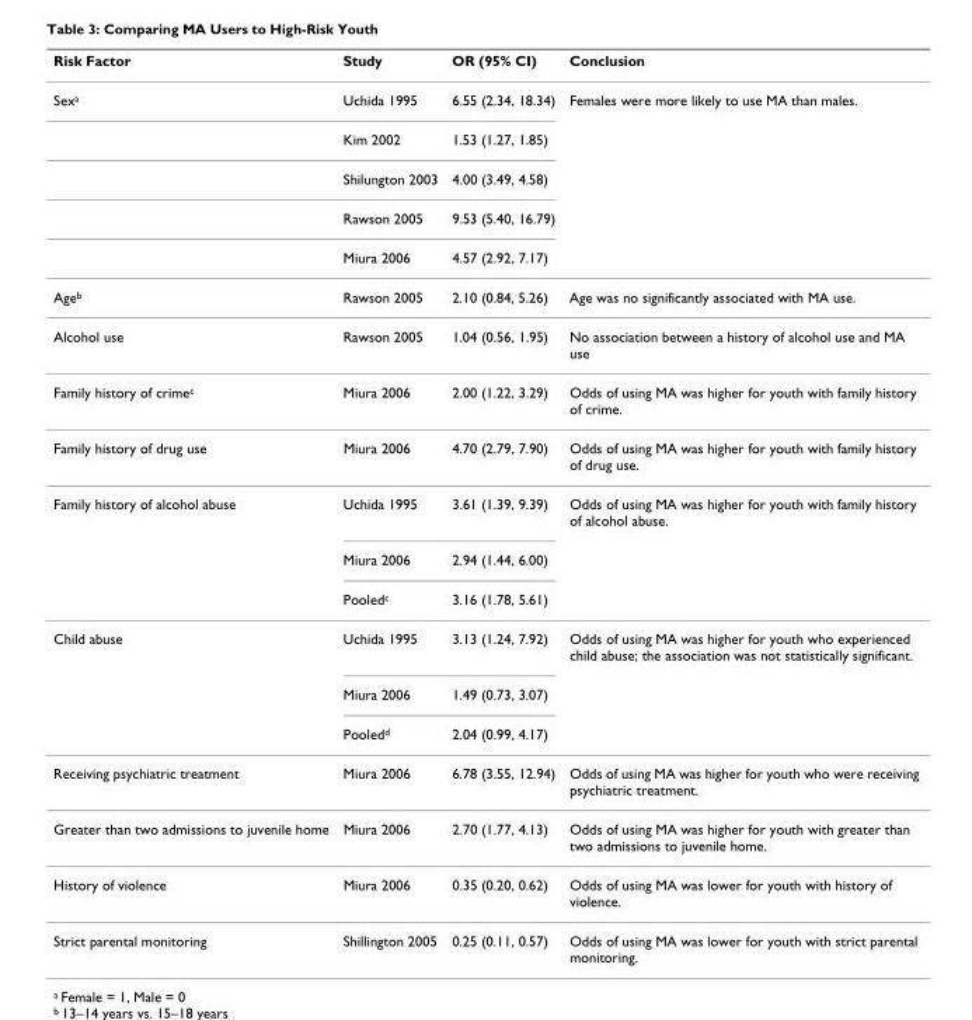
<table><thead><tr><td>Risk Factor</td><td>Study</td><td>OR (95% CI)</td><td>Conclusion</td></tr></thead><tbody><tr><td rowspan="5">Sex<sup>a</sup></td><td>Uchida 1995</td><td>6.55 (2.34, 18.34)</td><td>Females were more likely to use MA than males.</td></tr><tr><td>Kim 2002</td><td>1.53 (1.27, 1.85)</td><td></td></tr><tr><td>Shilungton 2003</td><td>4.00 (3.49, 4.58)</td><td></td></tr><tr><td>Rawson 2005</td><td>9.53 (5.40, 16.79)</td><td></td></tr><tr><td>Miura 2006</td><td>4.57 (2.92, 7.17)</td><td></td></tr><tr><td>Age<sup>b</sup></td><td>Rawson 2005</td><td>2.10 (0.84, 5.26)</td><td>Age was no significantly associated with MA use.</td></tr><tr><td>Alcohol use</td><td>Rawson 2005</td><td>1.04 (0.56, 1.95)</td><td>No association between a history of alcohol use and MA use</td></tr><tr><td>Family history of crime<sup>c</sup></td><td>Miura 2006</td><td>2.00 (1.22, 3.29)</td><td>Odds of using MA was higher for youth with family history of crime.</td></tr><tr><td>Family history of drug use</td><td>Miura 2006</td><td>4.70 (2.79, 7.90)</td><td>Odds of using MA was higher for youth with family history of drug use.</td></tr><tr><td rowspan="3">Family history of alcohol abuse</td><td>Uchida 1995</td><td>3.61 (1.39, 9.39)</td><td>Odds of using MA was higher for youth with family history of alcohol abuse.</td></tr><tr><td>Miura 2006</td><td>2.94 (1.44, 6.00)</td><td></td></tr><tr><td>Pooled<sup>c</sup></td><td>3.16 (1.78, 5.61)</td><td></td></tr><tr><td rowspan="3">Child abuse</td><td>Uchida 1995</td><td>3.13 (1.24, 7.92)</td><td>Odds of using MA was higher for youth who experienced child abuse; the association was not statistically significant.</td></tr><tr><td>Miura 2006</td><td>1.49 (0.73, 3.07)</td><td></td></tr><tr><td>Pooled<sup>d</sup></td><td>2.04 (0.99, 4.17)</td><td></td></tr><tr><td>Receiving psychiatric treatment</td><td>Miura 2006</td><td>6.78 (3.55, 12.94)</td><td>Odds of using MA was higher for youth who were receiving psychiatric treatment.</td></tr><tr><td>Greater than two admissions to juvenile home</td><td>Miura 2006</td><td>2.70 (1.77, 4.13)</td><td>Odds of using MA was higher for youth with greater than two admissions to juvenile home.</td></tr><tr><td>History of violence</td><td>Miura 2006</td><td>0.35 (0.20, 0.62)</td><td>Odds of using MA was lower for youth with history of violence.</td></tr><tr><td>Strict parental monitoring</td><td>Shillington 2005</td><td>0.25 (0.11, 0.57)</td><td>Odds of using MA was lower for youth with strict parental monitoring.</td></tr></tbody></table>